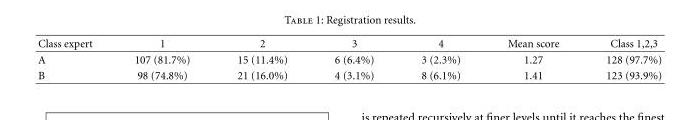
<table><thead><tr><td>Class expert</td><td>1</td><td>2</td><td>3</td><td>4</td><td>Mean score</td><td>Class 1,2,3</td></tr></thead><tbody><tr><td>A</td><td>107 (81.7%)</td><td>15 (11.4%)</td><td>6 (6.4%)</td><td>3 (2.3%)</td><td>1.27</td><td>128 (97.7%)</td></tr><tr><td>B</td><td>98 (74.8%)</td><td>21 (16.0%)</td><td>4 (3.1%)</td><td>8 (6.1%)</td><td>1.41</td><td>123 (93.9%)</td></tr></tbody></table>